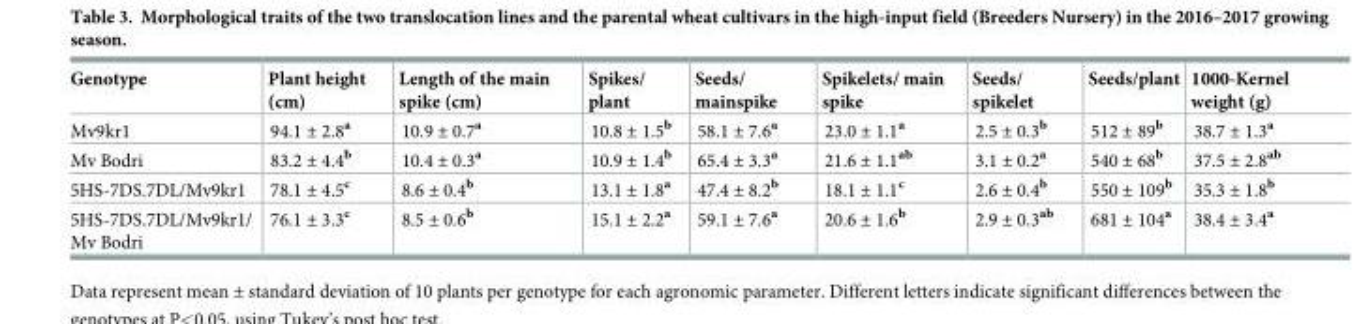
<table><thead><tr><td>Genotype</td><td>Plant height (cm)</td><td>Length of the main spike (cm)</td><td>Spikes/ plant</td><td>Seeds/ mainspike</td><td>Spikelets/ main spike</td><td>Seeds/ spikelet</td><td>Seeds/plant</td><td>1000-Kernel weight (g)</td></tr></thead><tbody><tr><td>Mv9kr1</td><td>94.1 ± 2.8<sup>a</sup></td><td>10.9 ± 0.7<sup>a</sup></td><td>10.8 ± 1.5<sup>b</sup></td><td>58.1 ± 7.6<sup>a</sup></td><td>23.0 ± 1.1<sup>a</sup></td><td>2.5 ± 0.3<sup>b</sup></td><td>512 ± 89<sup>b</sup></td><td>38.7 ± 1.3<sup>a</sup></td></tr><tr><td>Mv Bodri</td><td>83.2 ± 4.4<sup>b</sup></td><td>10.4 ± 0.3<sup>a</sup></td><td>10.9 ± 1.4<sup>b</sup></td><td>65.4 ± 3.3<sup>a</sup></td><td>21.6 ± 1.1<sup>ab</sup></td><td>3.1 ± 0.2<sup>a</sup></td><td>540 ± 68<sup>b</sup></td><td>37.5 ± 2.8<sup>ab</sup></td></tr><tr><td>5HS-7DS.7DL/Mv9kr1</td><td>78.1 ± 4.5<sup>c</sup></td><td>8.6 ± 0.4<sup>b</sup></td><td>13.1 ± 1.8<sup>a</sup></td><td>47.4 ± 8.2<sup>b</sup></td><td>18.1 ± 1.1<sup>c</sup></td><td>2.6 ± 0.4<sup>b</sup></td><td>550 ± 109<sup>b</sup></td><td>35.3 ± 1.8<sup>b</sup></td></tr><tr><td>5HS-7DS.7DL/Mv9kr1/ Mv Bodri</td><td>76.1 ± 3.3<sup>c</sup></td><td>8.5 ± 0.6<sup>b</sup></td><td>15.1 ± 2.2<sup>a</sup></td><td>59.1 ± 7.6<sup>a</sup></td><td>20.6 ± 1.6<sup>b</sup></td><td>2.9 ± 0.3<sup>ab</sup></td><td>681 ± 104<sup>a</sup></td><td>38.4 ± 3.4<sup>a</sup></td></tr></tbody></table>